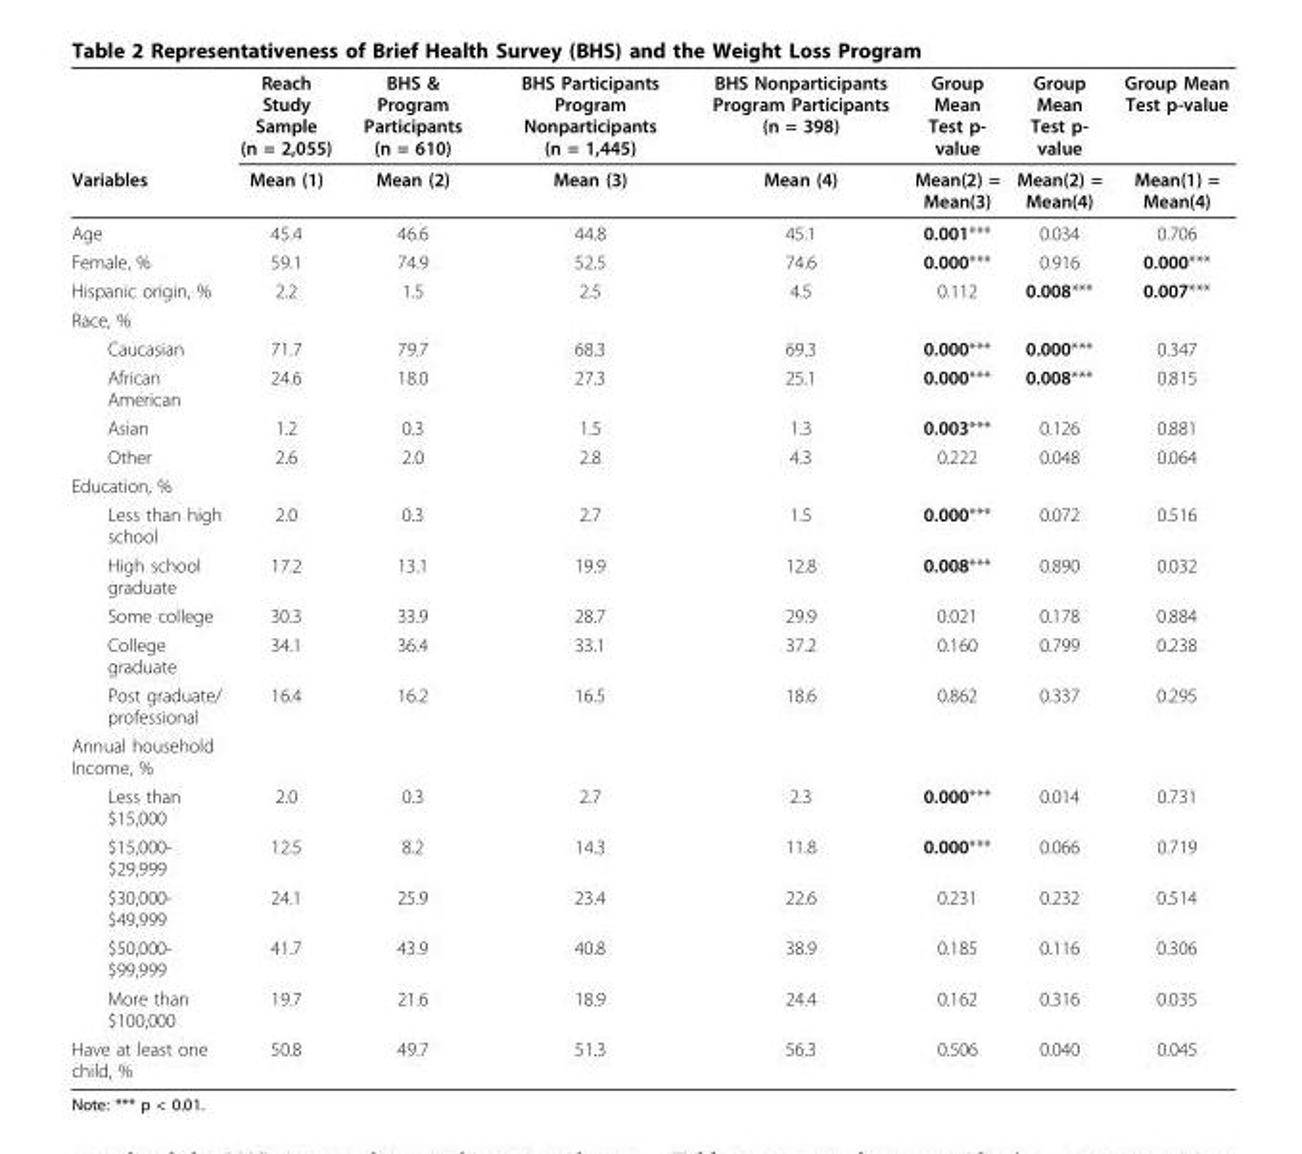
<table><thead><tr><td rowspan="2">Variables</td><td rowspan="2">Reach Study Sample (n = 2,055) Mean (1)</td><td rowspan="2">BHS &amp; Program Participants (n = 610) Mean (2)</td><td rowspan="2">BHS Participants Program Nonparticipants (n = 1,445) Mean (3)</td><td rowspan="2">BHS Nonparticipants Program Participants (n = 398) Mean (4)</td><td rowspan="2">Group Mean Test p- value Mean(2) = Mean(3)</td><td rowspan="2">Group Mean Test p- value Mean(2) = Mean(4)</td><td rowspan="2">Group Mean Test p-value Mean(1) = Mean(4)</td></tr><tr></tr></thead><tbody><tr><td>Age</td><td>45.4</td><td>46.6</td><td>44.8</td><td>45.1</td><td>0.001***</td><td>0.034</td><td>0.706</td></tr><tr><td>Female, %</td><td>59.1</td><td>74.9</td><td>52.5</td><td>74.6</td><td>0.000***</td><td>0.916</td><td>0.000***</td></tr><tr><td>Hispanic origin, %</td><td>2.2</td><td>1.5</td><td>2.5</td><td>4.5</td><td>0.112</td><td>0.008***</td><td>0.007***</td></tr><tr><td colspan="8">Race, %</td></tr><tr><td>Caucasian</td><td>71.7</td><td>79.7</td><td>68.3</td><td>69.3</td><td>0.000***</td><td>0.000***</td><td>0.347</td></tr><tr><td>African American</td><td>24.6</td><td>18.0</td><td>27.3</td><td>25.1</td><td>0.000***</td><td>0.008***</td><td>0.815</td></tr><tr><td>Asian</td><td>1.2</td><td>0.3</td><td>1.5</td><td>1.3</td><td>0.003***</td><td>0.126</td><td>0.881</td></tr><tr><td>Other</td><td>2.6</td><td>2.0</td><td>2.8</td><td>4.3</td><td>0.222</td><td>0.048</td><td>0.064</td></tr><tr><td colspan="8">Education, %</td></tr><tr><td>Less than high school</td><td>2.0</td><td>0.3</td><td>2.7</td><td>1.5</td><td>0.000***</td><td>0.072</td><td>0.516</td></tr><tr><td>High school graduate</td><td>17.2</td><td>13.1</td><td>19.9</td><td>12.8</td><td>0.008***</td><td>0.890</td><td>0.032</td></tr><tr><td>Some college</td><td>30.3</td><td>33.9</td><td>28.7</td><td>29.9</td><td>0.021</td><td>0.178</td><td>0.884</td></tr><tr><td>College graduate</td><td>34.1</td><td>36.4</td><td>33.1</td><td>37.2</td><td>0.160</td><td>0.799</td><td>0.238</td></tr><tr><td>Post graduate/ professional</td><td>16.4</td><td>16.2</td><td>16.5</td><td>18.6</td><td>0.862</td><td>0.337</td><td>0.295</td></tr><tr><td colspan="8">Annual household Income, %</td></tr><tr><td>Less than $15,000</td><td>2.0</td><td>0.3</td><td>2.7</td><td>2.3</td><td>0.000***</td><td>0.014</td><td>0.731</td></tr><tr><td>$15,000- $29,999</td><td>12.5</td><td>8.2</td><td>14.3</td><td>11.8</td><td>0.000***</td><td>0.066</td><td>0.719</td></tr><tr><td>$30,000- $49,999</td><td>24.1</td><td>25.9</td><td>23.4</td><td>22.6</td><td>0.231</td><td>0.232</td><td>0.514</td></tr><tr><td>$50,000- $99,999</td><td>41.7</td><td>43.9</td><td>40.8</td><td>38.9</td><td>0.185</td><td>0.116</td><td>0.306</td></tr><tr><td>More than $100,000</td><td>19.7</td><td>21.6</td><td>18.9</td><td>24.4</td><td>0.162</td><td>0.316</td><td>0.035</td></tr><tr><td>Have at least one child, %</td><td>50.8</td><td>49.7</td><td>51.3</td><td>56.3</td><td>0.506</td><td>0.040</td><td>0.045</td></tr></tbody></table>